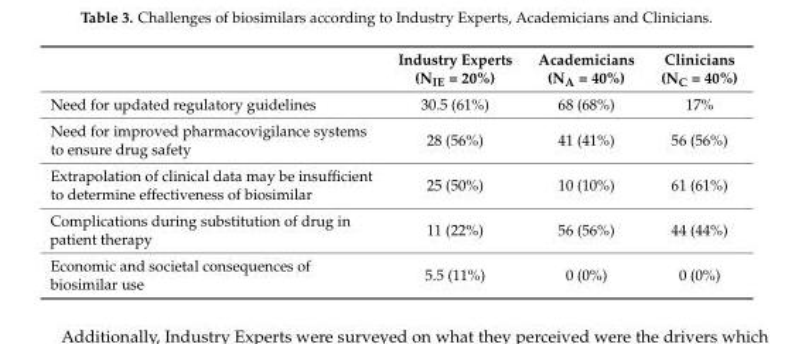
<table><thead><tr><td></td><td>Industry Experts (N<sub>IE</sub> = 20%)</td><td>Academicians (N<sub>A</sub> = 40%)</td><td>Clinicians (N<sub>C</sub> = 40%)</td></tr></thead><tbody><tr><td>Need for updated regulatory guidelines</td><td>30.5 (61%)</td><td>68 (68%)</td><td>17%</td></tr><tr><td>Need for improved pharmacovigilance systems to ensure drug safety</td><td>28 (56%)</td><td>41 (41%)</td><td>56 (56%)</td></tr><tr><td>Extrapolation of clinical data may be insufficient to determine effectiveness of biosimilar</td><td>25 (50%)</td><td>10 (10%)</td><td>61 (61%)</td></tr><tr><td>Complications during substitution of drug in patient therapy</td><td>11 (22%)</td><td>56 (56%)</td><td>44 (44%)</td></tr><tr><td>Economic and societal consequences of biosimilar use</td><td>5.5 (11%)</td><td>0 (0%)</td><td>0 (0%)</td></tr></tbody></table>